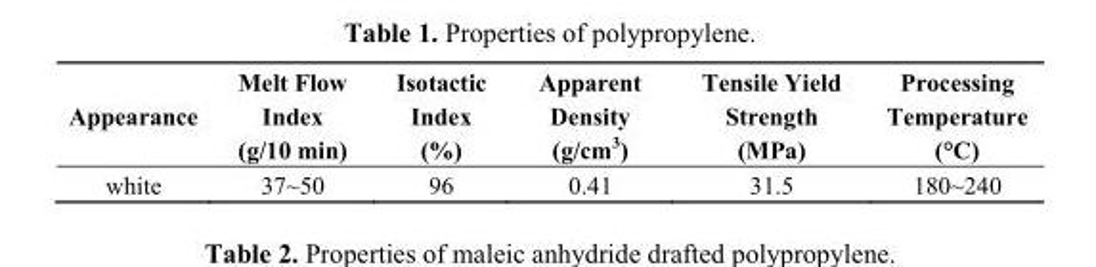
<table><thead><tr><td>Appearance</td><td>Melt Flow Index (g/10 min)</td><td>Isotactic Index (%)</td><td>Apparent Density (g/cm<sup>3</sup>)</td><td>Tensile Yield Strength (MPa)</td><td>Processing Temperature (°C)</td></tr></thead><tbody><tr><td>white</td><td>37~50</td><td>96</td><td>0.41</td><td>31.5</td><td>180~240</td></tr></tbody></table>